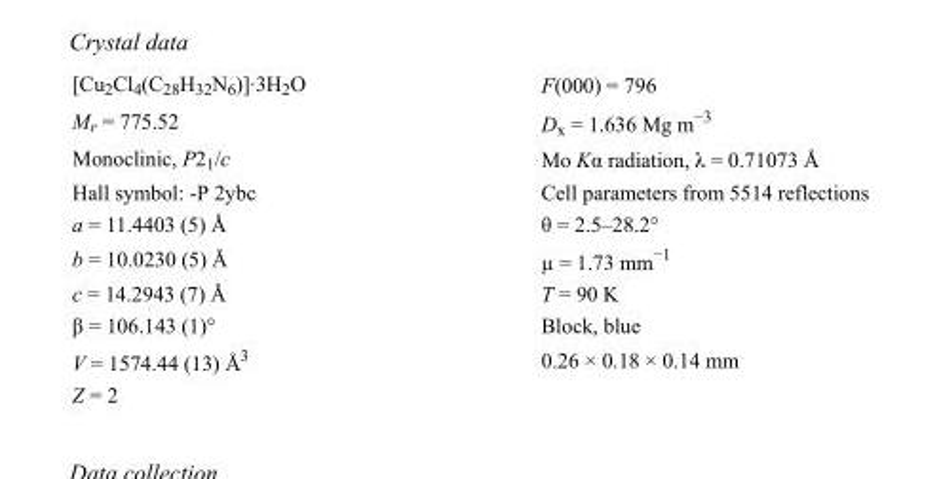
<table><tbody><tr><td>[Cu<sub>2</sub>Cl<sub>4</sub>(C<sub>28</sub>H<sub>32</sub>N<sub>6</sub>)]·3H<sub>2</sub>O</td><td>F(000) = 796</td></tr><tr><td>M<sub>r</sub> = 775.52</td><td>D<sub>x</sub> = 1.636 Mg m<sup>−3</sup></td></tr><tr><td>Monoclinic, P2<sub>1</sub>/c</td><td>Mo Kα radiation, λ = 0.71073 Å</td></tr><tr><td>Hall symbol: -P 2ybc</td><td>Cell parameters from 5514 reflections</td></tr><tr><td>a = 11.4403 (5) Å</td><td>θ = 2.5–28.2°</td></tr><tr><td>b = 10.0230 (5) Å</td><td>µ = 1.73 mm<sup>−1</sup></td></tr><tr><td>c = 14.2943 (7) Å</td><td>T = 90 K</td></tr><tr><td>β = 106.143 (1)°</td><td>Block, blue</td></tr><tr><td>V = 1574.44 (13) Å<sup>3</sup></td><td>0.26 × 0.18 × 0.14 mm</td></tr><tr><td>Z = 2</td><td></td></tr></tbody></table>